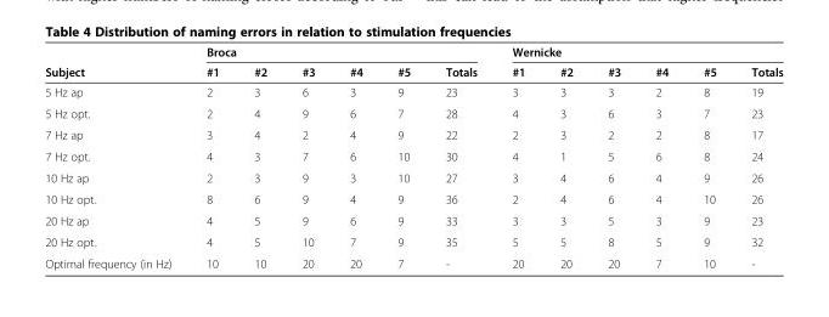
<table><thead><tr><td rowspan="2">Subject</td><td colspan="6">Broca</td><td colspan="6">Wernicke</td></tr><tr><td>#1</td><td>#2</td><td>#3</td><td>#4</td><td>#5</td><td>Totals</td><td>#1</td><td>#2</td><td>#3</td><td>#4</td><td>#5</td><td>Totals</td></tr></thead><tbody><tr><td>5 Hz ap</td><td>2</td><td>3</td><td>6</td><td>3</td><td>9</td><td>23</td><td>3</td><td>3</td><td>3</td><td>2</td><td>8</td><td>19</td></tr><tr><td>5 Hz opt.</td><td>2</td><td>4</td><td>9</td><td>6</td><td>7</td><td>28</td><td>4</td><td>3</td><td>6</td><td>3</td><td>7</td><td>23</td></tr><tr><td>7 Hz ap</td><td>3</td><td>4</td><td>2</td><td>4</td><td>9</td><td>22</td><td>2</td><td>3</td><td>2</td><td>2</td><td>8</td><td>17</td></tr><tr><td>7 Hz opt.</td><td>4</td><td>3</td><td>7</td><td>6</td><td>10</td><td>30</td><td>4</td><td>1</td><td>5</td><td>6</td><td>8</td><td>24</td></tr><tr><td>10 Hz ap</td><td>2</td><td>3</td><td>9</td><td>3</td><td>10</td><td>27</td><td>3</td><td>4</td><td>6</td><td>4</td><td>9</td><td>26</td></tr><tr><td>10 Hz opt.</td><td>8</td><td>6</td><td>9</td><td>4</td><td>9</td><td>36</td><td>2</td><td>4</td><td>6</td><td>4</td><td>10</td><td>26</td></tr><tr><td>20 Hz ap</td><td>4</td><td>5</td><td>9</td><td>6</td><td>9</td><td>33</td><td>3</td><td>3</td><td>5</td><td>3</td><td>9</td><td>23</td></tr><tr><td>20 Hz opt.</td><td>4</td><td>5</td><td>10</td><td>7</td><td>9</td><td>35</td><td>5</td><td>5</td><td>8</td><td>5</td><td>9</td><td>32</td></tr><tr><td>Optimal frequency (in Hz)</td><td>10</td><td>10</td><td>20</td><td>20</td><td>7</td><td>-</td><td>20</td><td>20</td><td>20</td><td>7</td><td>10</td><td>-</td></tr></tbody></table>